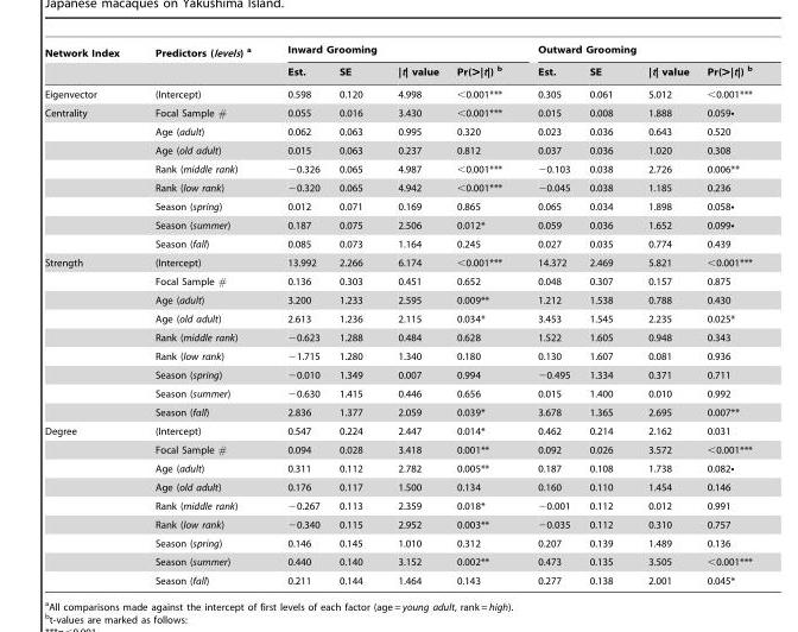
<table><thead><tr><td rowspan="2">Network Index</td><td rowspan="2">Predictors (levels) a</td><td colspan="4">Inward Grooming</td><td colspan="4">Outward Grooming</td></tr><tr><td>Est.</td><td>SE</td><td>|t| value</td><td>Pr(&gt;|t|) b</td><td>Est.</td><td>SE</td><td>|t| value</td><td>Pr(&gt;|t|) b</td></tr></thead><tbody><tr><td>Eigenvector</td><td>(Intercept)</td><td>0.598</td><td>0.120</td><td>4.998</td><td>&lt;0.001***</td><td>0.305</td><td>0.061</td><td>5.012</td><td>&lt;0.001***</td></tr><tr><td rowspan="8">Centrality</td><td>Focal Sample #</td><td>0.055</td><td>0.016</td><td>3.430</td><td>&lt;0.001***</td><td>0.015</td><td>0.008</td><td>1.888</td><td>0.059•</td></tr><tr><td>Age (adult)</td><td>0.062</td><td>0.063</td><td>0.995</td><td>0.320</td><td>0.023</td><td>0.036</td><td>0.643</td><td>0.520</td></tr><tr><td>Age (old adult)</td><td>0.015</td><td>0.063</td><td>0.237</td><td>0.812</td><td>0.037</td><td>0.036</td><td>1.020</td><td>0.308</td></tr><tr><td>Rank (middle rank)</td><td>−0.326</td><td>0.065</td><td>4.987</td><td>&lt;0.001***</td><td>−0.103</td><td>0.038</td><td>2.726</td><td>0.006**</td></tr><tr><td>Rank (low rank)</td><td>−0.320</td><td>0.065</td><td>4.942</td><td>&lt;0.001***</td><td>−0.045</td><td>0.038</td><td>1.185</td><td>0.236</td></tr><tr><td>Season (spring)</td><td>0.012</td><td>0.071</td><td>0.169</td><td>0.865</td><td>0.065</td><td>0.034</td><td>1.898</td><td>0.058•</td></tr><tr><td>Season (summer)</td><td>0.187</td><td>0.075</td><td>2.506</td><td>0.012*</td><td>0.059</td><td>0.036</td><td>1.652</td><td>0.099•</td></tr><tr><td>Season (fall)</td><td>0.085</td><td>0.073</td><td>1.164</td><td>0.245</td><td>0.027</td><td>0.035</td><td>0.774</td><td>0.439</td></tr><tr><td rowspan="9">Strength</td><td>(Intercept)</td><td>13.992</td><td>2.266</td><td>6.174</td><td>&lt;0.001***</td><td>14.372</td><td>2.469</td><td>5.821</td><td>&lt;0.001***</td></tr><tr><td>Focal Sample #</td><td>0.136</td><td>0.303</td><td>0.451</td><td>0.652</td><td>0.048</td><td>0.307</td><td>0.157</td><td>0.875</td></tr><tr><td>Age (adult)</td><td>3.200</td><td>1.233</td><td>2.595</td><td>0.009**</td><td>1.212</td><td>1.538</td><td>0.788</td><td>0.430</td></tr><tr><td>Age (old adult)</td><td>2.613</td><td>1.236</td><td>2.115</td><td>0.034*</td><td>3.453</td><td>1.545</td><td>2.235</td><td>0.025*</td></tr><tr><td>Rank (middle rank)</td><td>−0.623</td><td>1.288</td><td>0.484</td><td>0.628</td><td>1.522</td><td>1.605</td><td>0.948</td><td>0.343</td></tr><tr><td>Rank (low rank)</td><td>−1.715</td><td>1.280</td><td>1.340</td><td>0.180</td><td>0.130</td><td>1.607</td><td>0.081</td><td>0.936</td></tr><tr><td>Season (spring)</td><td>−0.010</td><td>1.349</td><td>0.007</td><td>0.994</td><td>−0.495</td><td>1.334</td><td>0.371</td><td>0.711</td></tr><tr><td>Season (summer)</td><td>−0.630</td><td>1.415</td><td>0.446</td><td>0.656</td><td>0.015</td><td>1.400</td><td>0.010</td><td>0.992</td></tr><tr><td>Season (fall)</td><td>2.836</td><td>1.377</td><td>2.059</td><td>0.039*</td><td>3.678</td><td>1.365</td><td>2.695</td><td>0.007**</td></tr><tr><td rowspan="9">Degree</td><td>(Intercept)</td><td>0.547</td><td>0.224</td><td>2.447</td><td>0.014*</td><td>0.462</td><td>0.214</td><td>2.162</td><td>0.031</td></tr><tr><td>Focal Sample #</td><td>0.094</td><td>0.028</td><td>3.418</td><td>0.001**</td><td>0.092</td><td>0.026</td><td>3.572</td><td>&lt;0.001***</td></tr><tr><td>Age (adult)</td><td>0.311</td><td>0.112</td><td>2.782</td><td>0.005**</td><td>0.187</td><td>0.108</td><td>1.738</td><td>0.082•</td></tr><tr><td>Age (old adult)</td><td>0.176</td><td>0.117</td><td>1.500</td><td>0.134</td><td>0.160</td><td>0.110</td><td>1.454</td><td>0.146</td></tr><tr><td>Rank (middle rank)</td><td>−0.267</td><td>0.113</td><td>2.359</td><td>0.018*</td><td>−0.001</td><td>0.112</td><td>0.012</td><td>0.991</td></tr><tr><td>Rank (low rank)</td><td>−0.340</td><td>0.115</td><td>2.952</td><td>0.003**</td><td>−0.035</td><td>0.112</td><td>0.310</td><td>0.757</td></tr><tr><td>Season (spring)</td><td>0.146</td><td>0.145</td><td>1.010</td><td>0.312</td><td>0.207</td><td>0.139</td><td>1.489</td><td>0.136</td></tr><tr><td>Season (summer)</td><td>0.440</td><td>0.140</td><td>3.152</td><td>0.002**</td><td>0.473</td><td>0.135</td><td>3.505</td><td>&lt;0.001***</td></tr><tr><td>Season (fall)</td><td>0.211</td><td>0.144</td><td>1.464</td><td>0.143</td><td>0.277</td><td>0.138</td><td>2.001</td><td>0.045*</td></tr></tbody></table>